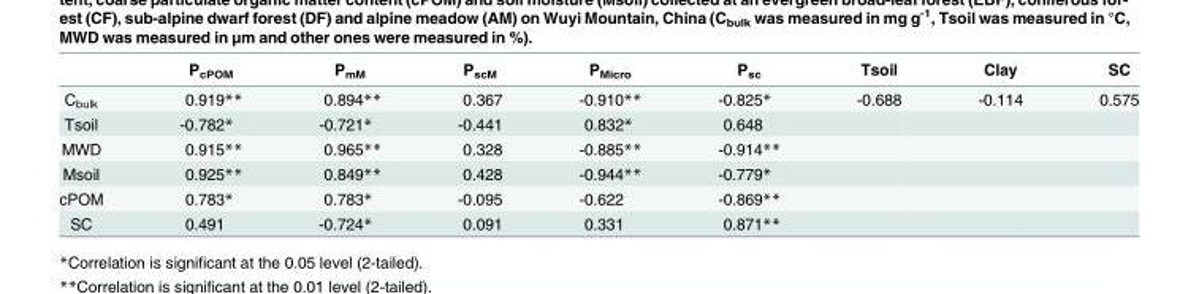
<table><thead><tr><td></td><td>P<sub>cPOM</sub></td><td>P<sub>mM</sub></td><td>P<sub>scM</sub></td><td>P<sub>Micro</sub></td><td>P<sub>sc</sub></td><td>Tsoil</td><td>Clay</td><td>SC</td></tr></thead><tbody><tr><td>C<sub>bulk</sub></td><td>0.919**</td><td>0.894**</td><td>0.367</td><td>-0.910**</td><td>-0.825*</td><td>-0.688</td><td>-0.114</td><td>0.575</td></tr><tr><td>Tsoil</td><td>-0.782*</td><td>-0.721*</td><td>-0.441</td><td>0.832*</td><td>0.648</td><td></td><td></td><td></td></tr><tr><td>MWD</td><td>0.915**</td><td>0.965**</td><td>0.328</td><td>-0.885**</td><td>-0.914**</td><td></td><td></td><td></td></tr><tr><td>Msoil</td><td>0.925**</td><td>0.849**</td><td>0.428</td><td>-0.944**</td><td>-0.779*</td><td></td><td></td><td></td></tr><tr><td>cPOM</td><td>0.783*</td><td>0.783*</td><td>-0.095</td><td>-0.622</td><td>-0.869**</td><td></td><td></td><td></td></tr><tr><td>SC</td><td>0.491</td><td>-0.724*</td><td>0.091</td><td>0.331</td><td>0.871**</td><td></td><td></td><td></td></tr></tbody></table>